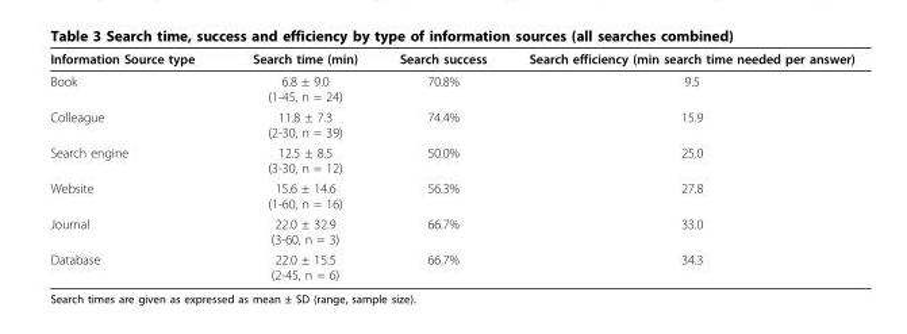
<table><thead><tr><td>Information Source type</td><td>Search time (min)</td><td>Search success</td><td>Search efficiency (min search time needed per answer)</td></tr></thead><tbody><tr><td>Book</td><td>6.8 ± 9.0 (1-45, n = 24)</td><td>70.8%</td><td>9.5</td></tr><tr><td>Colleague</td><td>11.8 ± 7.3 (2-30, n = 39)</td><td>74.4%</td><td>15.9</td></tr><tr><td>Search engine</td><td>12.5 ± 8.5 (3-30, n = 12)</td><td>50.0%</td><td>25.0</td></tr><tr><td>Website</td><td>15.6 ± 14.6 (1-60, n = 16)</td><td>56.3%</td><td>27.8</td></tr><tr><td>Journal</td><td>22.0 ± 32.9 (3-60, n = 3)</td><td>66.7%</td><td>33.0</td></tr><tr><td>Database</td><td>22.0 ± 15.5 (2-45, n = 6)</td><td>66.7%</td><td>34.3</td></tr></tbody></table>